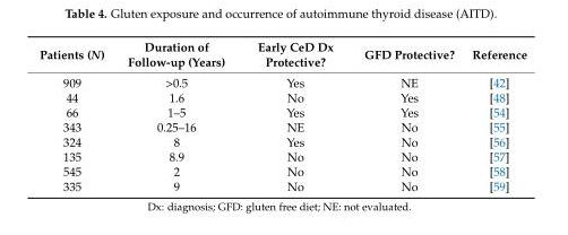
<table><thead><tr><td>Patients (N)</td><td>Duration of Follow-up (Years)</td><td>Early CeD Dx Protective?</td><td>GFD Protective?</td><td>Reference</td></tr></thead><tbody><tr><td>909</td><td>&gt;0.5</td><td>Yes</td><td>NE</td><td>[42]</td></tr><tr><td>44</td><td>1.6</td><td>No</td><td>Yes</td><td>[48]</td></tr><tr><td>66</td><td>1–5</td><td>Yes</td><td>Yes</td><td>[54]</td></tr><tr><td>343</td><td>0.25–16</td><td>NE</td><td>No</td><td>[55]</td></tr><tr><td>324</td><td>8</td><td>Yes</td><td>No</td><td>[56]</td></tr><tr><td>135</td><td>8.9</td><td>No</td><td>No</td><td>[57]</td></tr><tr><td>545</td><td>2</td><td>No</td><td>No</td><td>[58]</td></tr><tr><td>335</td><td>9</td><td>No</td><td>No</td><td>[59]</td></tr></tbody></table>